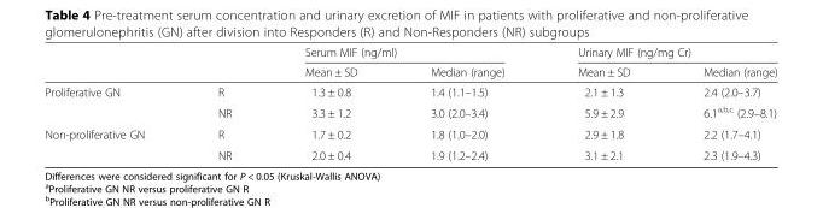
<table><thead><tr><td rowspan="2"></td><td rowspan="2"></td><td colspan="2">Serum MIF (ng/ml)</td><td colspan="2">Urinary MIF (ng/mg Cr)</td></tr><tr><td>Mean ± SD</td><td>Median (range)</td><td>Mean ± SD</td><td>Median (range)</td></tr></thead><tbody><tr><td rowspan="2">Proliferative GN</td><td>R</td><td>1.3 ± 0.8</td><td>1.4 (1.1–1.5)</td><td>2.1 ± 1.3</td><td>2.4 (2.0–3.7)</td></tr><tr><td>NR</td><td>3.3 ± 1.2</td><td>3.0 (2.0–3.4)</td><td>5.9 ± 2.9</td><td>6.1<sup>a,b,c</sup> (2.9–8.1)</td></tr><tr><td rowspan="2">Non-proliferative GN</td><td>R</td><td>1.7 ± 0.2</td><td>1.8 (1.0–2.0)</td><td>2.9 ± 1.8</td><td>2.2 (1.7–4.1)</td></tr><tr><td>NR</td><td>2.0 ± 0.4</td><td>1.9 (1.2–2.4)</td><td>3.1 ± 2.1</td><td>2.3 (1.9–4.3)</td></tr></tbody></table>